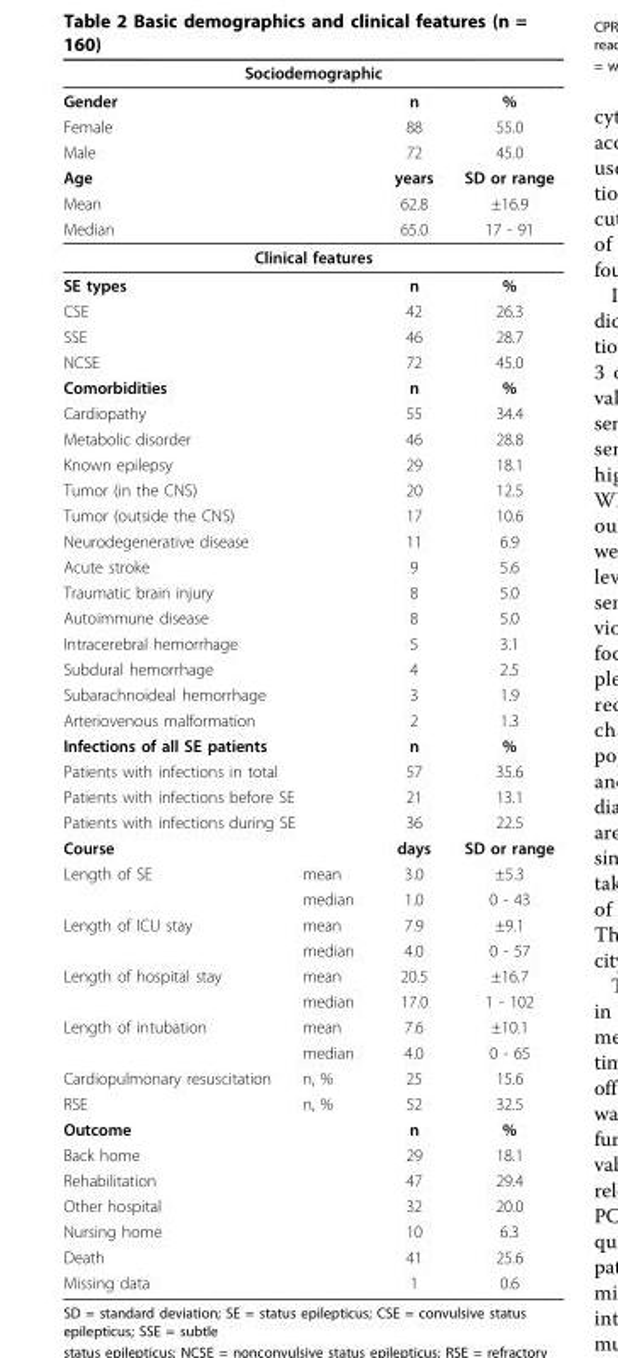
<table><thead><tr><td colspan="4">Sociodemographic</td></tr></thead><tbody><tr><td colspan="2">Gender</td><td>n</td><td>%</td></tr><tr><td colspan="2">Female</td><td>88</td><td>55.0</td></tr><tr><td colspan="2">Male</td><td>72</td><td>45.0</td></tr><tr><td colspan="2">Age</td><td>years</td><td>SD or range</td></tr><tr><td colspan="2">Mean</td><td>62.8</td><td>±16.9</td></tr><tr><td colspan="2">Median</td><td>65.0</td><td>17 - 91</td></tr><tr><td colspan="4">Clinical features</td></tr><tr><td colspan="2">SE types</td><td>n</td><td>%</td></tr><tr><td colspan="2">CSE</td><td>42</td><td>26.3</td></tr><tr><td colspan="2">SSE</td><td>46</td><td>28.7</td></tr><tr><td colspan="2">NCSE</td><td>72</td><td>45.0</td></tr><tr><td colspan="2">Comorbidities</td><td>n</td><td>%</td></tr><tr><td colspan="2">Cardiopathy</td><td>55</td><td>34.4</td></tr><tr><td colspan="2">Metabolic disorder</td><td>46</td><td>28.8</td></tr><tr><td colspan="2">Known epilepsy</td><td>29</td><td>18.1</td></tr><tr><td colspan="2">Tumor (in the CNS)</td><td>20</td><td>12.5</td></tr><tr><td colspan="2">Tumor (outside the CNS)</td><td>17</td><td>10.6</td></tr><tr><td colspan="2">Neurodegenerative disease</td><td>11</td><td>6.9</td></tr><tr><td colspan="2">Acute stroke</td><td>9</td><td>5.6</td></tr><tr><td colspan="2">Traumatic brain injury</td><td>8</td><td>5.0</td></tr><tr><td colspan="2">Autoimmune disease</td><td>8</td><td>5.0</td></tr><tr><td colspan="2">Intracerebral hemorrhage</td><td>5</td><td>3.1</td></tr><tr><td colspan="2">Subdural hemorrhage</td><td>4</td><td>2.5</td></tr><tr><td colspan="2">Subarachnoideal hemorrhage</td><td>3</td><td>1.9</td></tr><tr><td colspan="2">Arteriovenous malformation</td><td>2</td><td>1.3</td></tr><tr><td colspan="2">Infections of all SE patients</td><td>n</td><td>%</td></tr><tr><td colspan="2">Patients with infections in total</td><td>57</td><td>35.6</td></tr><tr><td colspan="2">Patients with infections before SE</td><td>21</td><td>13.1</td></tr><tr><td colspan="2">Patients with infections during SE</td><td>36</td><td>22.5</td></tr><tr><td colspan="2">Course</td><td>days</td><td>SD or range</td></tr><tr><td rowspan="2">Length of SE</td><td>mean</td><td>3.0</td><td>±5.3</td></tr><tr><td>median</td><td>1.0</td><td>0 - 43</td></tr><tr><td rowspan="2">Length of ICU stay</td><td>mean</td><td>7.9</td><td>±9.1</td></tr><tr><td>median</td><td>4.0</td><td>0 - 57</td></tr><tr><td rowspan="2">Length of hospital stay</td><td>mean</td><td>20.5</td><td>±16.7</td></tr><tr><td>median</td><td>17.0</td><td>1 - 102</td></tr><tr><td rowspan="2">Length of intubation</td><td>mean</td><td>7.6</td><td>±10.1</td></tr><tr><td>median</td><td>4.0</td><td>0 - 65</td></tr><tr><td>Cardiopulmonary resuscitation</td><td>n, %</td><td>25</td><td>15.6</td></tr><tr><td>RSE</td><td>n, %</td><td>52</td><td>32.5</td></tr><tr><td colspan="2">Outcome</td><td>n</td><td>%</td></tr><tr><td colspan="2">Back home</td><td>29</td><td>18.1</td></tr><tr><td colspan="2">Rehabilitation</td><td>47</td><td>29.4</td></tr><tr><td colspan="2">Other hospital</td><td>32</td><td>20.0</td></tr><tr><td colspan="2">Nursing home</td><td>10</td><td>6.3</td></tr><tr><td colspan="2">Death</td><td>41</td><td>25.6</td></tr><tr><td colspan="2">Missing data</td><td>1</td><td>0.6</td></tr></tbody></table>